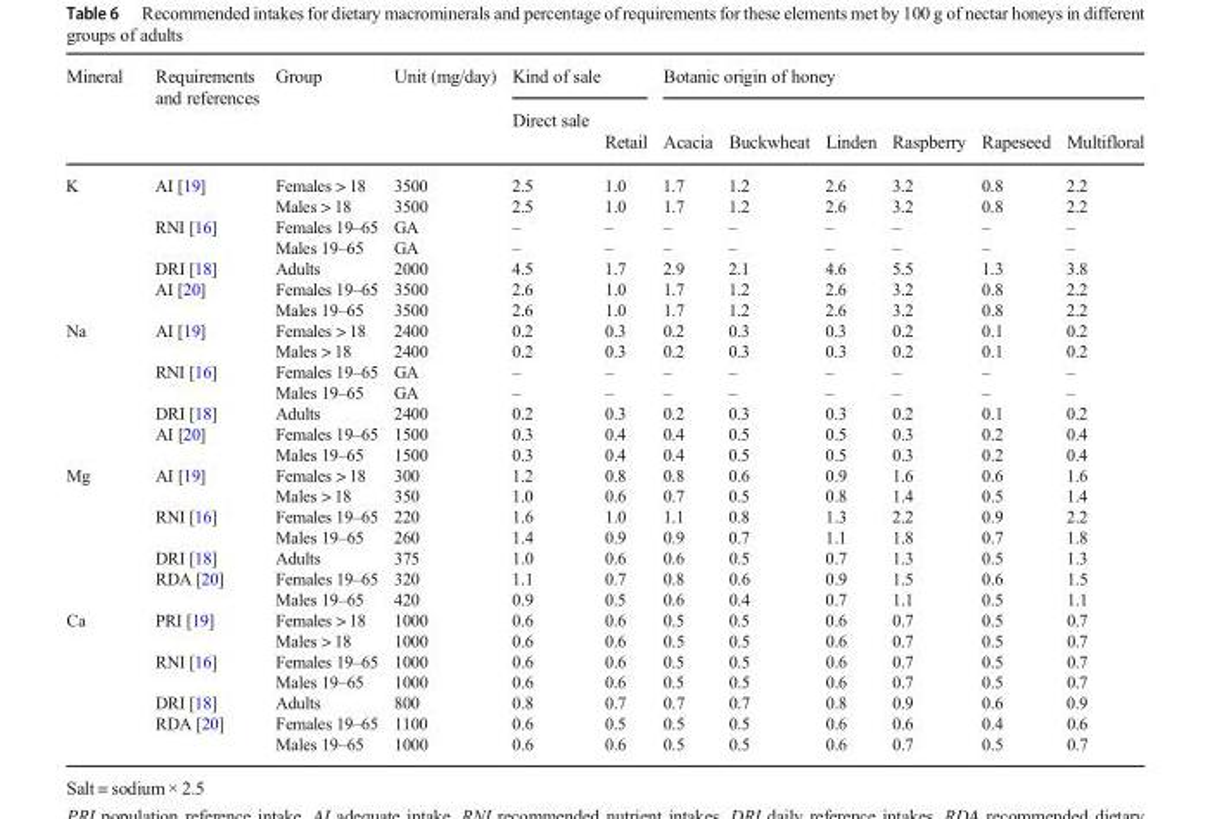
<table><thead><tr><td rowspan="2">Mineral</td><td rowspan="2">Requirements and references</td><td rowspan="2">Group</td><td rowspan="2">Unit (mg/day)</td><td colspan="2">Kind of sale</td><td colspan="6">Botanic origin of honey</td></tr><tr><td>Direct sale</td><td>Retail</td><td>Acacia</td><td>Buckwheat</td><td>Linden</td><td>Raspberry</td><td>Rapeseed</td><td>Multifloral</td></tr></thead><tbody><tr><td rowspan="7">K</td><td rowspan="2">AI [19]</td><td>Females &gt; 18</td><td>3500</td><td>2.5</td><td>1.0</td><td>1.7</td><td>1.2</td><td>2.6</td><td>3.2</td><td>0.8</td><td>2.2</td></tr><tr><td>Males &gt; 18</td><td>3500</td><td>2.5</td><td>1.0</td><td>1.7</td><td>1.2</td><td>2.6</td><td>3.2</td><td>0.8</td><td>2.2</td></tr><tr><td rowspan="2">RNI [16]</td><td>Females 19–65</td><td>GA</td><td>–</td><td>–</td><td>–</td><td>–</td><td>–</td><td>–</td><td>–</td><td>–</td></tr><tr><td>Males 19–65</td><td>GA</td><td>–</td><td>–</td><td>–</td><td>–</td><td>–</td><td>–</td><td>–</td><td>–</td></tr><tr><td>DRI [18]</td><td>Adults</td><td>2000</td><td>4.5</td><td>1.7</td><td>2.9</td><td>2.1</td><td>4.6</td><td>5.5</td><td>1.3</td><td>3.8</td></tr><tr><td rowspan="2">AI [20]</td><td>Females 19–65</td><td>3500</td><td>2.6</td><td>1.0</td><td>1.7</td><td>1.2</td><td>2.6</td><td>3.2</td><td>0.8</td><td>2.2</td></tr><tr><td>Males 19–65</td><td>3500</td><td>2.6</td><td>1.0</td><td>1.7</td><td>1.2</td><td>2.6</td><td>3.2</td><td>0.8</td><td>2.2</td></tr><tr><td rowspan="7">Na</td><td rowspan="2">AI [19]</td><td>Females &gt; 18</td><td>2400</td><td>0.2</td><td>0.3</td><td>0.2</td><td>0.3</td><td>0.3</td><td>0.2</td><td>0.1</td><td>0.2</td></tr><tr><td>Males &gt; 18</td><td>2400</td><td>0.2</td><td>0.3</td><td>0.2</td><td>0.3</td><td>0.3</td><td>0.2</td><td>0.1</td><td>0.2</td></tr><tr><td rowspan="2">RNI [16]</td><td>Females 19–65</td><td>GA</td><td>–</td><td>–</td><td>–</td><td>–</td><td>–</td><td>–</td><td>–</td><td>–</td></tr><tr><td>Males 19–65</td><td>GA</td><td>–</td><td>–</td><td>–</td><td>–</td><td>–</td><td>–</td><td>–</td><td>–</td></tr><tr><td>DRI [18]</td><td>Adults</td><td>2400</td><td>0.2</td><td>0.3</td><td>0.2</td><td>0.3</td><td>0.3</td><td>0.2</td><td>0.1</td><td>0.2</td></tr><tr><td rowspan="2">AI [20]</td><td>Females 19–65</td><td>1500</td><td>0.3</td><td>0.4</td><td>0.4</td><td>0.5</td><td>0.5</td><td>0.3</td><td>0.2</td><td>0.4</td></tr><tr><td>Males 19–65</td><td>1500</td><td>0.3</td><td>0.4</td><td>0.4</td><td>0.5</td><td>0.5</td><td>0.3</td><td>0.2</td><td>0.4</td></tr><tr><td rowspan="7">Mg</td><td rowspan="2">AI [19]</td><td>Females &gt; 18</td><td>300</td><td>1.2</td><td>0.8</td><td>0.8</td><td>0.6</td><td>0.9</td><td>1.6</td><td>0.6</td><td>1.6</td></tr><tr><td>Males &gt; 18</td><td>350</td><td>1.0</td><td>0.6</td><td>0.7</td><td>0.5</td><td>0.8</td><td>1.4</td><td>0.5</td><td>1.4</td></tr><tr><td rowspan="2">RNI [16]</td><td>Females 19–65</td><td>220</td><td>1.6</td><td>1.0</td><td>1.1</td><td>0.8</td><td>1.3</td><td>2.2</td><td>0.9</td><td>2.2</td></tr><tr><td>Males 19–65</td><td>260</td><td>1.4</td><td>0.9</td><td>0.9</td><td>0.7</td><td>1.1</td><td>1.8</td><td>0.7</td><td>1.8</td></tr><tr><td>DRI [18]</td><td>Adults</td><td>375</td><td>1.0</td><td>0.6</td><td>0.6</td><td>0.5</td><td>0.7</td><td>1.3</td><td>0.5</td><td>1.3</td></tr><tr><td rowspan="2">RDA [20]</td><td>Females 19–65</td><td>320</td><td>1.1</td><td>0.7</td><td>0.8</td><td>0.6</td><td>0.9</td><td>1.5</td><td>0.6</td><td>1.5</td></tr><tr><td>Males 19–65</td><td>420</td><td>0.9</td><td>0.5</td><td>0.6</td><td>0.4</td><td>0.7</td><td>1.1</td><td>0.5</td><td>1.1</td></tr><tr><td rowspan="7">Ca</td><td rowspan="2">PRI [19]</td><td>Females &gt; 18</td><td>1000</td><td>0.6</td><td>0.6</td><td>0.5</td><td>0.5</td><td>0.6</td><td>0.7</td><td>0.5</td><td>0.7</td></tr><tr><td>Males &gt; 18</td><td>1000</td><td>0.6</td><td>0.6</td><td>0.5</td><td>0.5</td><td>0.6</td><td>0.7</td><td>0.5</td><td>0.7</td></tr><tr><td rowspan="2">RNI [16]</td><td>Females 19–65</td><td>1000</td><td>0.6</td><td>0.6</td><td>0.5</td><td>0.5</td><td>0.6</td><td>0.7</td><td>0.5</td><td>0.7</td></tr><tr><td>Males 19–65</td><td>1000</td><td>0.6</td><td>0.6</td><td>0.5</td><td>0.5</td><td>0.6</td><td>0.7</td><td>0.5</td><td>0.7</td></tr><tr><td>DRI [18]</td><td>Adults</td><td>800</td><td>0.8</td><td>0.7</td><td>0.7</td><td>0.7</td><td>0.8</td><td>0.9</td><td>0.6</td><td>0.9</td></tr><tr><td rowspan="2">RDA [20]</td><td>Females 19–65</td><td>1100</td><td>0.6</td><td>0.5</td><td>0.5</td><td>0.5</td><td>0.6</td><td>0.6</td><td>0.4</td><td>0.6</td></tr><tr><td>Males 19–65</td><td>1000</td><td>0.6</td><td>0.6</td><td>0.5</td><td>0.5</td><td>0.6</td><td>0.7</td><td>0.5</td><td>0.7</td></tr></tbody></table>